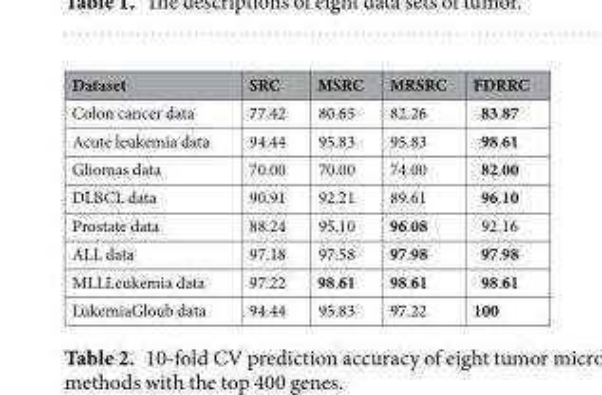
<table><thead><tr><td>Dataset</td><td>SRC</td><td>MSRC</td><td>MRSRC</td><td>FDRRC</td></tr></thead><tbody><tr><td>Colon cancer data</td><td>77.42</td><td>80.65</td><td>82.26</td><td>83.87</td></tr><tr><td>Acute leukemia data</td><td>94.44</td><td>95.83</td><td>95.83</td><td>98.61</td></tr><tr><td>Gliomas data</td><td>70.00</td><td>70.00</td><td>74.00</td><td>82.00</td></tr><tr><td>DLBCL data</td><td>90.91</td><td>92.21</td><td>89.61</td><td>96.10</td></tr><tr><td>Prostate data</td><td>88.24</td><td>95.10</td><td>96.08</td><td>92.16</td></tr><tr><td>ALL data</td><td>97.18</td><td>97.58</td><td>97.98</td><td>97.98</td></tr><tr><td>MLLLeukemia data</td><td>97.22</td><td>98.61</td><td>98.61</td><td>98.61</td></tr><tr><td>LukemiaGloub data</td><td>94.44</td><td>95.83</td><td>97.22</td><td>100</td></tr></tbody></table>